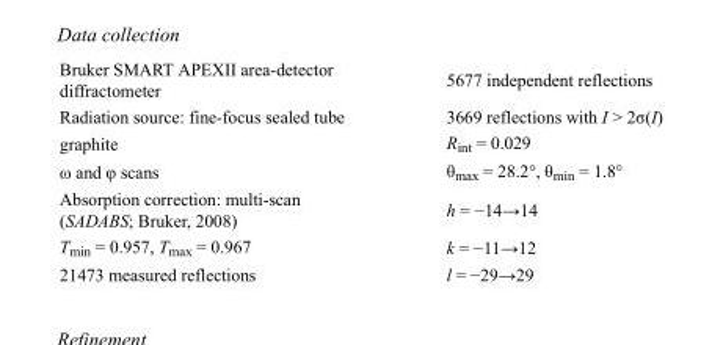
<table><tbody><tr><td>Bruker SMART APEXII area-detector diffractometer</td><td>5677 independent reflections</td></tr><tr><td>Radiation source: fine-focus sealed tube</td><td>3669 reflections with I &gt; 2σ(I)</td></tr><tr><td>graphite</td><td>R<sub>int</sub> = 0.029</td></tr><tr><td>ω and φ scans</td><td>θ<sub>max</sub> = 28.2°, θ<sub>min</sub> = 1.8°</td></tr><tr><td>Absorption correction: multi-scan (SADABS; Bruker, 2008)</td><td>h = −14→14</td></tr><tr><td>T<sub>min</sub> = 0.957, T<sub>max</sub> = 0.967</td><td>k = −11→12</td></tr><tr><td>21473 measured reflections</td><td>l = −29→29</td></tr></tbody></table>